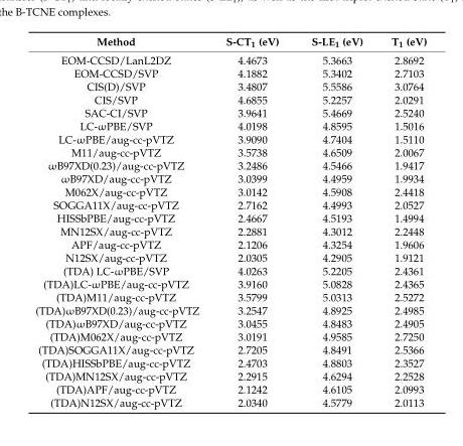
<table><thead><tr><td>Method</td><td>S-CT<sub>1</sub> (eV)</td><td>S-LE<sub>1</sub> (eV)</td><td>T<sub>1</sub> (eV)</td></tr></thead><tbody><tr><td>EOM-CCSD/LanL2DZ</td><td>4.4673</td><td>5.3663</td><td>2.8692</td></tr><tr><td>EOM-CCSD/SVP</td><td>4.1882</td><td>5.3402</td><td>2.7103</td></tr><tr><td>CIS(D)/SVP</td><td>3.4807</td><td>5.5586</td><td>3.0764</td></tr><tr><td>CIS/SVP</td><td>4.6855</td><td>5.2257</td><td>2.0291</td></tr><tr><td>SAC-CI/SVP</td><td>3.9641</td><td>5.4669</td><td>2.5240</td></tr><tr><td>LC-ωPBE/SVP</td><td>4.0198</td><td>4.8595</td><td>1.5016</td></tr><tr><td>LC-ωPBE/aug-cc-pVTZ</td><td>3.9090</td><td>4.7404</td><td>1.5110</td></tr><tr><td>M11/aug-cc-pVTZ</td><td>3.5738</td><td>4.6509</td><td>2.0067</td></tr><tr><td>ωB97XD(0.23)/aug-cc-pVTZ</td><td>3.2486</td><td>4.5466</td><td>1.9417</td></tr><tr><td>ωB97XD/aug-cc-pVTZ</td><td>3.0399</td><td>4.4959</td><td>1.9934</td></tr><tr><td>M062X/aug-cc-pVTZ</td><td>3.0142</td><td>4.5908</td><td>2.4418</td></tr><tr><td>SOGGA11X/aug-cc-pVTZ</td><td>2.7162</td><td>4.4993</td><td>2.0527</td></tr><tr><td>HISSbPBE/aug-cc-pVTZ</td><td>2.4667</td><td>4.5193</td><td>1.4994</td></tr><tr><td>MN12SX/aug-cc-pVTZ</td><td>2.2881</td><td>4.3012</td><td>2.2448</td></tr><tr><td>APF/aug-cc-pVTZ</td><td>2.1206</td><td>4.3254</td><td>1.9606</td></tr><tr><td>N12SX/aug-cc-pVTZ</td><td>2.0305</td><td>4.2905</td><td>1.9121</td></tr><tr><td>(TDA) LC-ωPBE/SVP</td><td>4.0263</td><td>5.2205</td><td>2.4361</td></tr><tr><td>(TDA)LC-ωPBE/aug-cc-pVTZ</td><td>3.9160</td><td>5.0828</td><td>2.4365</td></tr><tr><td>(TDA)M11/aug-cc-pVTZ</td><td>3.5799</td><td>5.0313</td><td>2.5272</td></tr><tr><td>(TDA)ωB97XD(0.23)/aug-cc-pVTZ</td><td>3.2547</td><td>4.8925</td><td>2.4985</td></tr><tr><td>(TDA)ωB97XD/aug-cc-pVTZ</td><td>3.0455</td><td>4.8483</td><td>2.4905</td></tr><tr><td>(TDA)M062X/aug-cc-pVTZ</td><td>3.0191</td><td>4.9585</td><td>2.7250</td></tr><tr><td>(TDA)SOGGA11X/aug-cc-pVTZ</td><td>2.7205</td><td>4.8491</td><td>2.5366</td></tr><tr><td>(TDA)HISSbPBE/aug-cc-pVTZ</td><td>2.4703</td><td>4.8803</td><td>2.3527</td></tr><tr><td>(TDA)MN12SX/aug-cc-pVTZ</td><td>2.2915</td><td>4.6294</td><td>2.2528</td></tr><tr><td>(TDA)APF/aug-cc-pVTZ</td><td>2.1242</td><td>4.6105</td><td>2.0993</td></tr><tr><td>(TDA)N12SX/aug-cc-pVTZ</td><td>2.0340</td><td>4.5779</td><td>2.0113</td></tr></tbody></table>